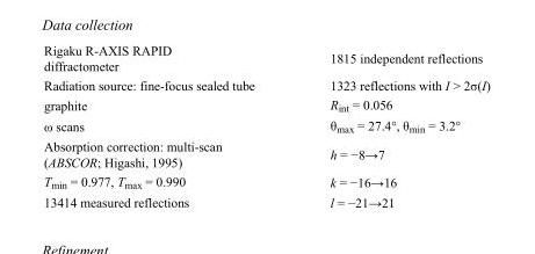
<table><tbody><tr><td>Rigaku R-AXIS RAPID diffractometer</td><td>1815 independent reflections</td></tr><tr><td>Radiation source: fine-focus sealed tube</td><td>1323 reflections with I &gt; 2σ(I)</td></tr><tr><td>graphite</td><td>R<sub>int</sub> = 0.056</td></tr><tr><td>ω scans</td><td>θ<sub>max</sub> = 27.4°, θ<sub>min</sub> = 3.2°</td></tr><tr><td>Absorption correction: multi-scan (ABSCOR; Higashi, 1995)</td><td>h = −8→7</td></tr><tr><td>T<sub>min</sub> = 0.977, T<sub>max</sub> = 0.990</td><td>k = −16→16</td></tr><tr><td>13414 measured reflections</td><td>l = −21→21</td></tr></tbody></table>